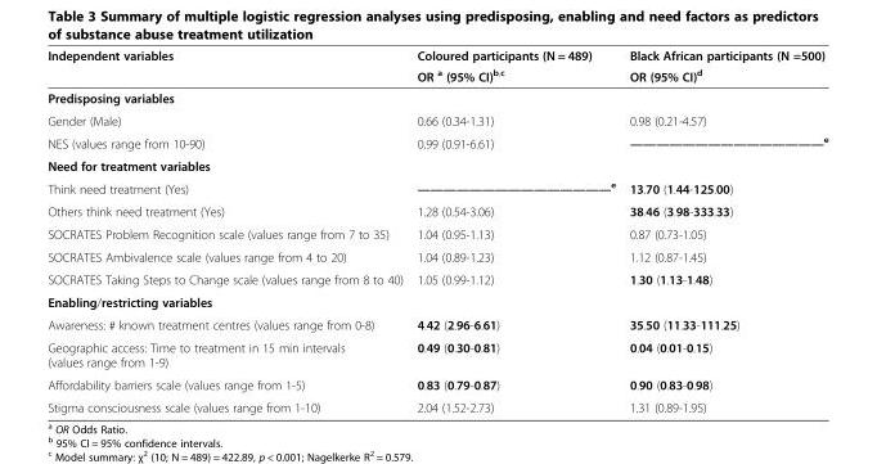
<table><thead><tr><td rowspan="2">Independent variables</td><td rowspan="2">Coloured participants (N = 489) OR <sup>a</sup> (95% CI)<sup>b,c</sup></td><td rowspan="2">Black African participants (N =500) OR (95% CI)<sup>d</sup></td></tr><tr></tr></thead><tbody><tr><td colspan="3">Predisposing variables</td></tr><tr><td>Gender (Male)</td><td>0.66 (0.34-1.31)</td><td>0.98 (0.21-4.57)</td></tr><tr><td>NES (values range from 10-90)</td><td>0.99 (0.91-6.61)</td><td>———————————————e</td></tr><tr><td colspan="3">Need for treatment variables</td></tr><tr><td>Think need treatment (Yes)</td><td>———————————————e</td><td>13.70 (1.44-125.00)</td></tr><tr><td>Others think need treatment (Yes)</td><td>1.28 (0.54-3.06)</td><td>38.46 (3.98-333.33)</td></tr><tr><td>SOCRATES Problem Recognition scale (values range from 7 to 35)</td><td>1.04 (0.95-1.13)</td><td>0.87 (0.73-1.05)</td></tr><tr><td>SOCRATES Ambivalence scale (values range from 4 to 20)</td><td>1.04 (0.89-1.23)</td><td>1.12 (0.87-1.45)</td></tr><tr><td>SOCRATES Taking Steps to Change scale (values range from 8 to 40)</td><td>1.05 (0.99-1.12)</td><td>1.30 (1.13-1.48)</td></tr><tr><td colspan="3">Enabling/restricting variables</td></tr><tr><td>Awareness: # known treatment centres (values range from 0-8)</td><td>4.42 (2.96-6.61)</td><td>35.50 (11.33-111.25)</td></tr><tr><td>Geographic access: Time to treatment in 15 min intervals (values range from 1-9)</td><td>0.49 (0.30-0.81)</td><td>0.04 (0.01-0.15)</td></tr><tr><td>Affordability barriers scale (values range from 1-5)</td><td>0.83 (0.79-0.87)</td><td>0.90 (0.83-0.98)</td></tr><tr><td>Stigma consciousness scale (values range from 1-10)</td><td>2.04 (1.52-2.73)</td><td>1.31 (0.89-1.95)</td></tr></tbody></table>